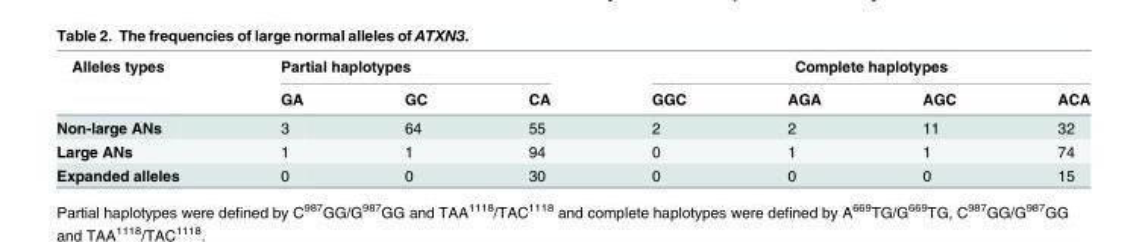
<table><thead><tr><td rowspan="2">Alleles types</td><td colspan="3">Partial haplotypes</td><td colspan="4">Complete haplotypes</td></tr><tr><td>GA</td><td>GC</td><td>CA</td><td>GGC</td><td>AGA</td><td>AGC</td><td>ACA</td></tr></thead><tbody><tr><td>Non-large ANs</td><td>3</td><td>64</td><td>55</td><td>2</td><td>2</td><td>11</td><td>32</td></tr><tr><td>Large ANs</td><td>1</td><td>1</td><td>94</td><td>0</td><td>1</td><td>1</td><td>74</td></tr><tr><td>Expanded alleles</td><td>0</td><td>0</td><td>30</td><td>0</td><td>0</td><td>0</td><td>15</td></tr></tbody></table>